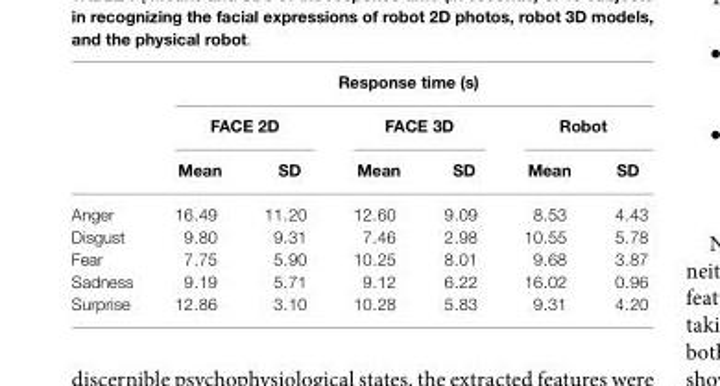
<table><thead><tr><td rowspan="3"></td><td colspan="6">Response time (s)</td></tr><tr><td colspan="2">FACE 2D</td><td colspan="2">FACE 3D</td><td colspan="2">Robot</td></tr><tr><td>Mean</td><td>SD</td><td>Mean</td><td>SD</td><td>Mean</td><td>SD</td></tr></thead><tbody><tr><td>Anger</td><td>16.49</td><td>11.20</td><td>12.60</td><td>9.09</td><td>8.53</td><td>4.43</td></tr><tr><td>Disgust</td><td>9.80</td><td>9.31</td><td>7.46</td><td>2.98</td><td>10.55</td><td>5.78</td></tr><tr><td>Fear</td><td>7.75</td><td>5.90</td><td>10.25</td><td>8.01</td><td>9.68</td><td>3.87</td></tr><tr><td>Sadness</td><td>9.19</td><td>5.71</td><td>9.12</td><td>6.22</td><td>16.02</td><td>0.96</td></tr><tr><td>Surprise</td><td>12.86</td><td>3.10</td><td>10.28</td><td>5.83</td><td>9.31</td><td>4.20</td></tr></tbody></table>